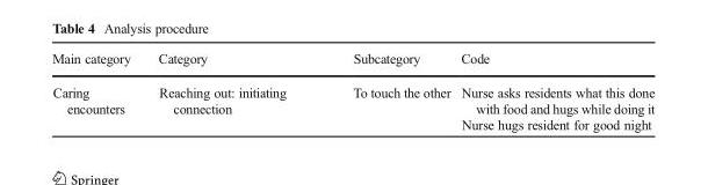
<table><thead><tr><td>Main category</td><td>Category</td><td>Subcategory</td><td>Code</td></tr></thead><tbody><tr><td rowspan="2">Caring encounters</td><td rowspan="2">Reaching out: initiating connection</td><td rowspan="2">To touch the other</td><td>Nurse asks residents what this done with food and hugs while doing it</td></tr><tr><td>Nurse hugs resident for good night</td></tr></tbody></table>